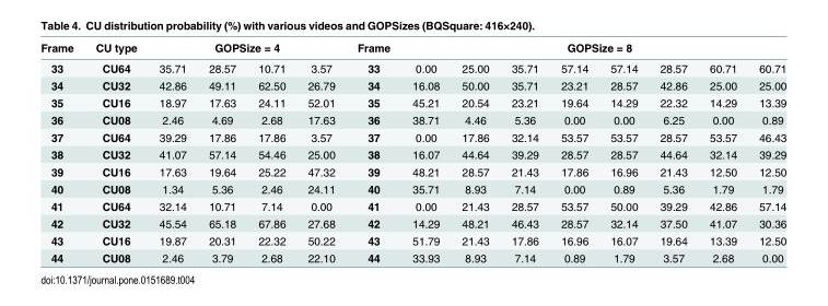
<table><thead><tr><td rowspan="2">Frame 33</td><td rowspan="2">CU type CU64</td><td colspan="4">GOPSize = 4</td><td rowspan="2">Frame 33</td><td colspan="8">GOPSize = 8</td></tr><tr><td>35.71</td><td>28.57</td><td>10.71</td><td>3.57</td><td>0.00</td><td>25.00</td><td>35.71</td><td>57.14</td><td>57.14</td><td>28.57</td><td>60.71</td><td>60.71</td></tr></thead><tbody><tr><td>34</td><td>CU32</td><td>42.86</td><td>49.11</td><td>62.50</td><td>26.79</td><td>34</td><td>16.08</td><td>50.00</td><td>35.71</td><td>23.21</td><td>28.57</td><td>42.86</td><td>25.00</td><td>25.00</td></tr><tr><td>35</td><td>CU16</td><td>18.97</td><td>17.63</td><td>24.11</td><td>52.01</td><td>35</td><td>45.21</td><td>20.54</td><td>23.21</td><td>19.64</td><td>14.29</td><td>22.32</td><td>14.29</td><td>13.39</td></tr><tr><td>36</td><td>CU08</td><td>2.46</td><td>4.69</td><td>2.68</td><td>17.63</td><td>36</td><td>38.71</td><td>4.46</td><td>5.36</td><td>0.00</td><td>0.00</td><td>6.25</td><td>0.00</td><td>0.89</td></tr><tr><td>37</td><td>CU64</td><td>39.29</td><td>17.86</td><td>17.86</td><td>3.57</td><td>37</td><td>0.00</td><td>17.86</td><td>32.14</td><td>53.57</td><td>53.57</td><td>28.57</td><td>53.57</td><td>46.43</td></tr><tr><td>38</td><td>CU32</td><td>41.07</td><td>57.14</td><td>54.46</td><td>25.00</td><td>38</td><td>16.07</td><td>44.64</td><td>39.29</td><td>28.57</td><td>28.57</td><td>44.64</td><td>32.14</td><td>39.29</td></tr><tr><td>39</td><td>CU16</td><td>17.63</td><td>19.64</td><td>25.22</td><td>47.32</td><td>39</td><td>48.21</td><td>28.57</td><td>21.43</td><td>17.86</td><td>16.96</td><td>21.43</td><td>12.50</td><td>12.50</td></tr><tr><td>40</td><td>CU08</td><td>1.34</td><td>5.36</td><td>2.46</td><td>24.11</td><td>40</td><td>35.71</td><td>8.93</td><td>7.14</td><td>0.00</td><td>0.89</td><td>5.36</td><td>1.79</td><td>1.79</td></tr><tr><td>41</td><td>CU64</td><td>32.14</td><td>10.71</td><td>7.14</td><td>0.00</td><td>41</td><td>0.00</td><td>21.43</td><td>28.57</td><td>53.57</td><td>50.00</td><td>39.29</td><td>42.86</td><td>57.14</td></tr><tr><td>42</td><td>CU32</td><td>45.54</td><td>65.18</td><td>67.86</td><td>27.68</td><td>42</td><td>14.29</td><td>48.21</td><td>46.43</td><td>28.57</td><td>32.14</td><td>37.50</td><td>41.07</td><td>30.36</td></tr><tr><td>43</td><td>CU16</td><td>19.87</td><td>20.31</td><td>22.32</td><td>50.22</td><td>43</td><td>51.79</td><td>21.43</td><td>17.86</td><td>16.96</td><td>16.07</td><td>19.64</td><td>13.39</td><td>12.50</td></tr><tr><td>44</td><td>CU08</td><td>2.46</td><td>3.79</td><td>2.68</td><td>22.10</td><td>44</td><td>33.93</td><td>8.93</td><td>7.14</td><td>0.89</td><td>1.79</td><td>3.57</td><td>2.68</td><td>0.00</td></tr></tbody></table>